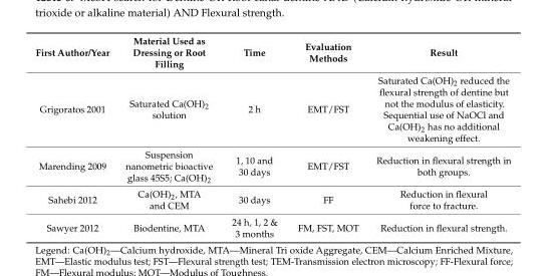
<table><thead><tr><td>First Author/Year</td><td>Material Used as Dressing or Root Filling</td><td>Time</td><td>Evaluation Methods</td><td>Result</td></tr></thead><tbody><tr><td>Grigoratos 2001</td><td>Saturated Ca(OH)<sub>2</sub> solution</td><td>2 h</td><td>EMT/FST</td><td>Saturated Ca(OH)<sub>2</sub> reduced the flexural strength of dentine but not the modulus of elasticity. Sequential use of NaOCl and Ca(OH)<sub>2</sub> has no additional weakening effect.</td></tr><tr><td>Marending 2009</td><td>Suspension nanometric bioactive glass 45S5; Ca(OH)<sub>2</sub></td><td>1, 10 and 30 days</td><td>EMT/FST</td><td>Reduction in flexural strength in both groups.</td></tr><tr><td>Sahebi 2012</td><td>Ca(OH)<sub>2</sub>, MTA and CEM</td><td>30 days</td><td>FF</td><td>Reduction in flexural force to fracture.</td></tr><tr><td>Sawyer 2012</td><td>Biodentine, MTA</td><td>24 h, 1, 2 &amp; 3 months</td><td>FM, FST, MOT</td><td>Reduction in flexural strength.</td></tr></tbody></table>